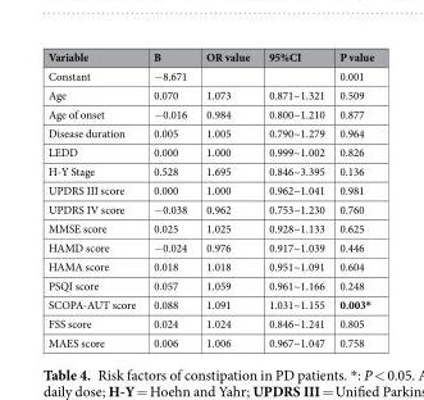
<table><thead><tr><td>Variable</td><td>B</td><td>OR value</td><td>95%CI</td><td>P value</td></tr></thead><tbody><tr><td>Constant</td><td>−8.671</td><td></td><td></td><td>0.001</td></tr><tr><td>Age</td><td>0.070</td><td>1.073</td><td>0.871~1.321</td><td>0.509</td></tr><tr><td>Age of onset</td><td>−0.016</td><td>0.984</td><td>0.800~1.210</td><td>0.877</td></tr><tr><td>Disease duration</td><td>0.005</td><td>1.005</td><td>0.790~1.279</td><td>0.964</td></tr><tr><td>LEDD</td><td>0.000</td><td>1.000</td><td>0.999~1.002</td><td>0.826</td></tr><tr><td>H-Y Stage</td><td>0.528</td><td>1.695</td><td>0.846~3.395</td><td>0.136</td></tr><tr><td>UPDRS III score</td><td>0.000</td><td>1.000</td><td>0.962~1.041</td><td>0.981</td></tr><tr><td>UPDRS IV score</td><td>−0.038</td><td>0.962</td><td>0.753~1.230</td><td>0.760</td></tr><tr><td>MMSE score</td><td>0.025</td><td>1.025</td><td>0.928~1.133</td><td>0.625</td></tr><tr><td>HAMD score</td><td>−0.024</td><td>0.976</td><td>0.917~1.039</td><td>0.446</td></tr><tr><td>HAMA score</td><td>0.018</td><td>1.018</td><td>0.951~1.091</td><td>0.604</td></tr><tr><td>PSQI score</td><td>0.057</td><td>1.059</td><td>0.961~1.166</td><td>0.248</td></tr><tr><td>SCOPA-AUT score</td><td>0.088</td><td>1.091</td><td>1.031~1.155</td><td>0.003*</td></tr><tr><td>FSS score</td><td>0.024</td><td>1.024</td><td>0.846~1.241</td><td>0.805</td></tr><tr><td>MAES score</td><td>0.006</td><td>1.006</td><td>0.967~1.047</td><td>0.758</td></tr></tbody></table>